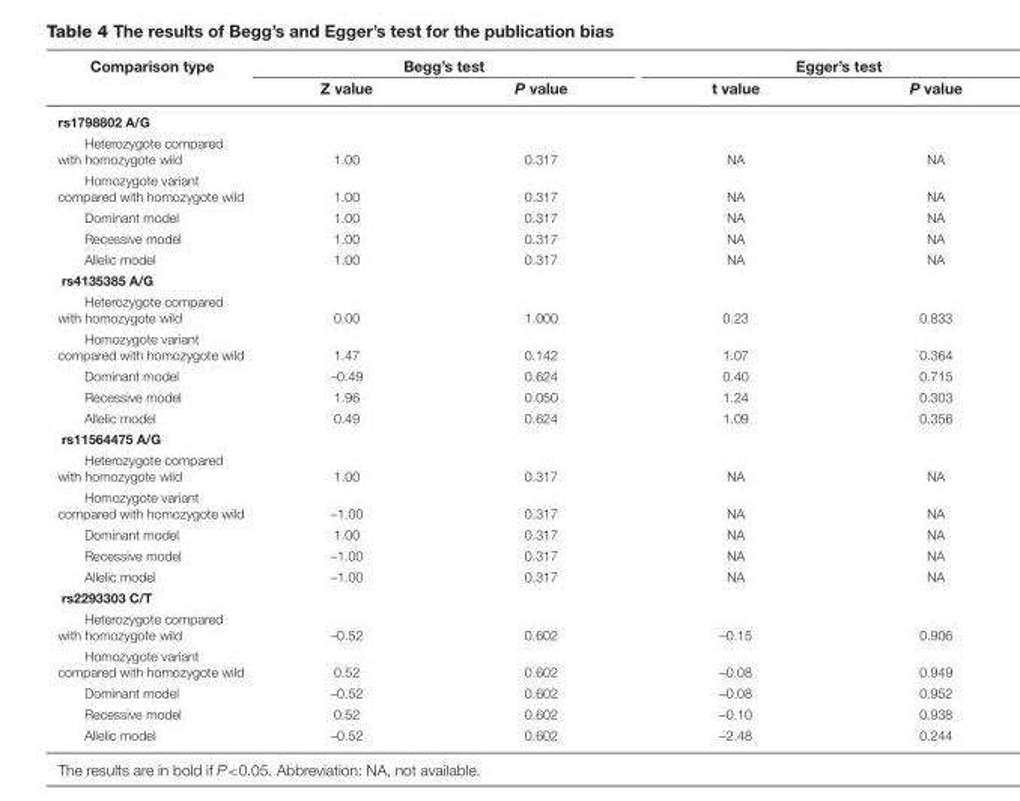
<table><thead><tr><td rowspan="2">Comparison type</td><td colspan="2">Begg’s test</td><td colspan="2">Egger’s test</td></tr><tr><td>Z value</td><td>P value</td><td>t value</td><td>P value</td></tr></thead><tbody><tr><td colspan="5">rs1798802 A/G</td></tr><tr><td>Heterozygote compared with homozygote wild</td><td>1.00</td><td>0.317</td><td>NA</td><td>NA</td></tr><tr><td>Homozygote variant compared with homozygote wild</td><td>1.00</td><td>0.317</td><td>NA</td><td>NA</td></tr><tr><td>Dominant model</td><td>1.00</td><td>0.317</td><td>NA</td><td>NA</td></tr><tr><td>Recessive model</td><td>1.00</td><td>0.317</td><td>NA</td><td>NA</td></tr><tr><td>Allelic model</td><td>1.00</td><td>0.317</td><td>NA</td><td>NA</td></tr><tr><td colspan="5">rs4135385 A/G</td></tr><tr><td>Heterozygote compared with homozygote wild</td><td>0.00</td><td>1.000</td><td>0.23</td><td>0.833</td></tr><tr><td>Homozygote variant compared with homozygote wild</td><td>1.47</td><td>0.142</td><td>1.07</td><td>0.364</td></tr><tr><td>Dominant model</td><td>–0.49</td><td>0.624</td><td>0.40</td><td>0.715</td></tr><tr><td>Recessive model</td><td>1.96</td><td>0.050</td><td>1.24</td><td>0.303</td></tr><tr><td>Allelic model</td><td>0.49</td><td>0.624</td><td>1.09</td><td>0.356</td></tr><tr><td colspan="5">rs11564475 A/G</td></tr><tr><td>Heterozygote compared with homozygote wild</td><td>1.00</td><td>0.317</td><td>NA</td><td>NA</td></tr><tr><td>Homozygote variant compared with homozygote wild</td><td>–1.00</td><td>0.317</td><td>NA</td><td>NA</td></tr><tr><td>Dominant model</td><td>1.00</td><td>0.317</td><td>NA</td><td>NA</td></tr><tr><td>Recessive model</td><td>–1.00</td><td>0.317</td><td>NA</td><td>NA</td></tr><tr><td>Allelic model</td><td>–1.00</td><td>0.317</td><td>NA</td><td>NA</td></tr><tr><td colspan="5">rs2293303 C/T</td></tr><tr><td>Heterozygote compared with homozygote wild</td><td>–0.52</td><td>0.602</td><td>–0.15</td><td>0.906</td></tr><tr><td>Homozygote variant compared with homozygote wild</td><td>0.52</td><td>0.602</td><td>–0.08</td><td>0.949</td></tr><tr><td>Dominant model</td><td>–0.52</td><td>0.602</td><td>–0.08</td><td>0.952</td></tr><tr><td>Recessive model</td><td>0.52</td><td>0.602</td><td>–0.10</td><td>0.938</td></tr><tr><td>Allelic model</td><td>–0.52</td><td>0.602</td><td>–2.48</td><td>0.244</td></tr></tbody></table>